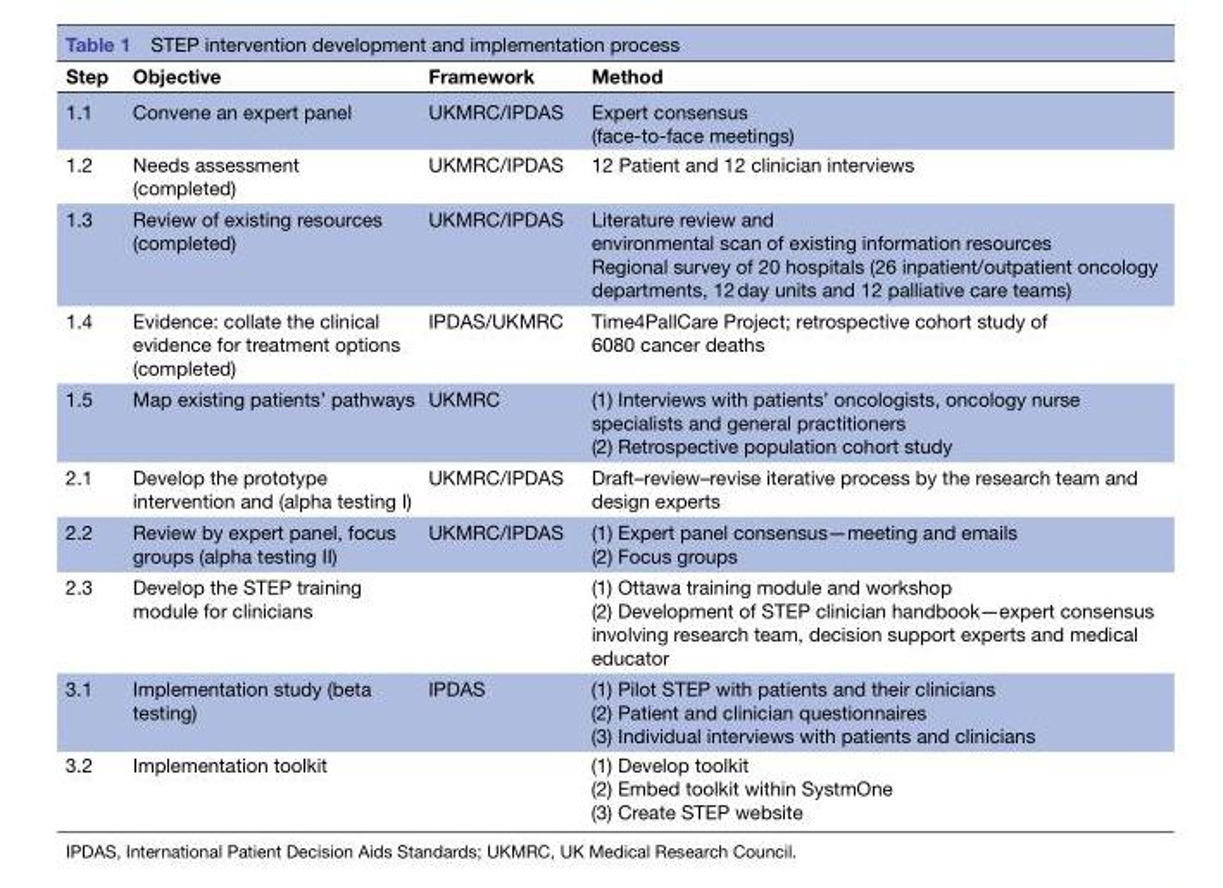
<table><thead><tr><td>Step</td><td>Objective</td><td>Framework</td><td>Method</td></tr></thead><tbody><tr><td>1.1</td><td>Convene an expert panel</td><td>UKMRC/IPDAS</td><td>Expert consensus (face-to-face meetings)</td></tr><tr><td>1.2</td><td>Needs assessment (completed)</td><td>UKMRC/IPDAS</td><td>12 Patient and 12 clinician interviews</td></tr><tr><td>1.3</td><td>Review of existing resources (completed)</td><td>UKMRC/IPDAS</td><td>Literature review and environmental scan of existing information resources Regional survey of 20 hospitals (26 inpatient/outpatient oncology departments, 12 day units and 12 palliative care teams)</td></tr><tr><td>1.4</td><td>Evidence: collate the clinical evidence for treatment options (completed)</td><td>IPDAS/UKMRC</td><td>Time4PallCare Project; retrospective cohort study of 6080 cancer deaths</td></tr><tr><td>1.5</td><td>Map existing patients’ pathways</td><td>UKMRC</td><td>(1) Interviews with patients’ oncologists, oncology nurse specialists and general practitioners (2) Retrospective population cohort study</td></tr><tr><td>2.1</td><td>Develop the prototype intervention and (alpha testing I)</td><td>UKMRC/IPDAS</td><td>Draft–review–revise iterative process by the research team and design experts</td></tr><tr><td>2.2</td><td>Review by expert panel, focus groups (alpha testing II)</td><td>UKMRC/IPDAS</td><td>(1) Expert panel consensus—meeting and emails (2) Focus groups</td></tr><tr><td>2.3</td><td>Develop the STEP training module for clinicians</td><td></td><td>(1) Ottawa training module and workshop (2) Development of STEP clinician handbook—expert consensus involving research team, decision support experts and medical educator</td></tr><tr><td>3.1</td><td>Implementation study (beta testing)</td><td>IPDAS</td><td>(1) Pilot STEP with patients and their clinicians (2) Patient and clinician questionnaires (3) Individual interviews with patients and clinicians</td></tr><tr><td>3.2</td><td>Implementation toolkit</td><td></td><td>(1) Develop toolkit (2) Embed toolkit within SystmOne (3) Create STEP website</td></tr></tbody></table>